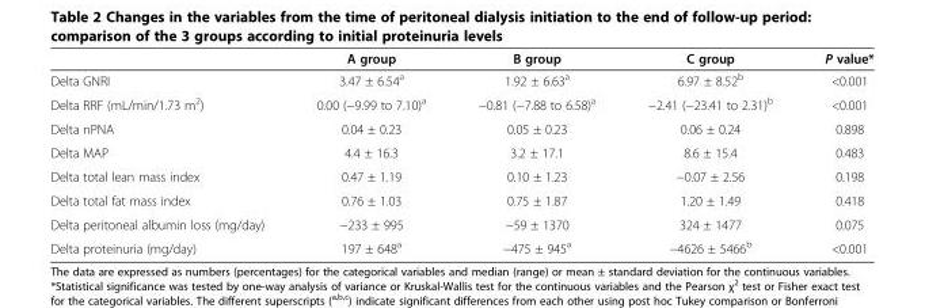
<table><thead><tr><td></td><td>A group</td><td>B group</td><td>C group</td><td>P value*</td></tr></thead><tbody><tr><td>Delta GNRI</td><td>3.47 ± 6.54<sup>a</sup></td><td>1.92 ± 6.63<sup>a</sup></td><td>6.97 ± 8.52<sup>b</sup></td><td>&lt;0.001</td></tr><tr><td>Delta RRF (mL/min/1.73 m<sup>2</sup>)</td><td>0.00 (−9.99 to 7.10)<sup>a</sup></td><td>−0.81 (−7.88 to 6.58)<sup>a</sup></td><td>−2.41 (−23.41 to 2.31)<sup>b</sup></td><td>&lt;0.001</td></tr><tr><td>Delta nPNA</td><td>0.04 ± 0.23</td><td>0.05 ± 0.23</td><td>0.06 ± 0.24</td><td>0.898</td></tr><tr><td>Delta MAP</td><td>4.4 ± 16.3</td><td>3.2 ± 17.1</td><td>8.6 ± 15.4</td><td>0.483</td></tr><tr><td>Delta total lean mass index</td><td>0.47 ± 1.19</td><td>0.10 ± 1.23</td><td>−0.07 ± 2.56</td><td>0.198</td></tr><tr><td>Delta total fat mass index</td><td>0.76 ± 1.03</td><td>0.75 ± 1.87</td><td>1.20 ± 1.49</td><td>0.418</td></tr><tr><td>Delta peritoneal albumin loss (mg/day)</td><td>−233 ± 995</td><td>−59 ± 1370</td><td>324 ± 1477</td><td>0.075</td></tr><tr><td>Delta proteinuria (mg/day)</td><td>197 ± 648<sup>a</sup></td><td>−475 ± 945<sup>a</sup></td><td>−4626 ± 5466<sup>b</sup></td><td>&lt;0.001</td></tr></tbody></table>